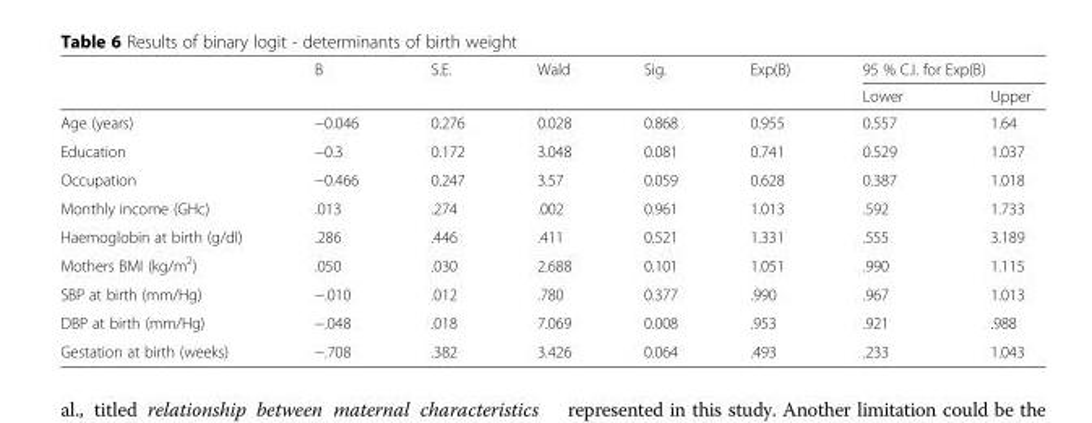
<table><thead><tr><td rowspan="2"></td><td rowspan="2">B</td><td rowspan="2">S.E.</td><td rowspan="2">Wald</td><td rowspan="2">Sig.</td><td rowspan="2">Exp(B)</td><td colspan="2">95 % C.I. for Exp(B)</td></tr><tr><td>Lower</td><td>Upper</td></tr></thead><tbody><tr><td>Age (years)</td><td>−0.046</td><td>0.276</td><td>0.028</td><td>0.868</td><td>0.955</td><td>0.557</td><td>1.64</td></tr><tr><td>Education</td><td>−0.3</td><td>0.172</td><td>3.048</td><td>0.081</td><td>0.741</td><td>0.529</td><td>1.037</td></tr><tr><td>Occupation</td><td>−0.466</td><td>0.247</td><td>3.57</td><td>0.059</td><td>0.628</td><td>0.387</td><td>1.018</td></tr><tr><td>Monthly income (GHc)</td><td>.013</td><td>.274</td><td>.002</td><td>0.961</td><td>1.013</td><td>.592</td><td>1.733</td></tr><tr><td>Haemoglobin at birth (g/dl)</td><td>.286</td><td>.446</td><td>.411</td><td>0.521</td><td>1.331</td><td>.555</td><td>3.189</td></tr><tr><td>Mothers BMI (kg/m<sup>2</sup>)</td><td>.050</td><td>.030</td><td>2.688</td><td>0.101</td><td>1.051</td><td>.990</td><td>1.115</td></tr><tr><td>SBP at birth (mm/Hg)</td><td>−.010</td><td>.012</td><td>.780</td><td>0.377</td><td>.990</td><td>.967</td><td>1.013</td></tr><tr><td>DBP at birth (mm/Hg)</td><td>−.048</td><td>.018</td><td>7.069</td><td>0.008</td><td>.953</td><td>.921</td><td>.988</td></tr><tr><td>Gestation at birth (weeks)</td><td>−.708</td><td>.382</td><td>3.426</td><td>0.064</td><td>.493</td><td>.233</td><td>1.043</td></tr></tbody></table>